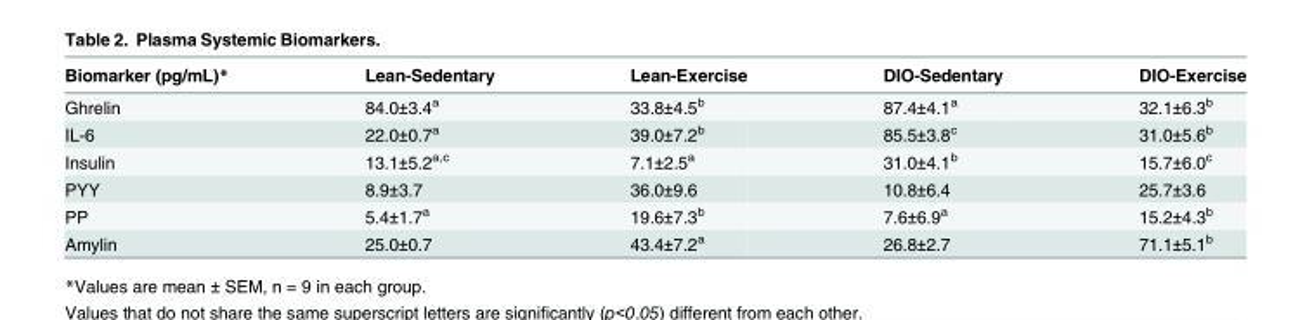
<table><thead><tr><td>Biomarker (pg/mL)*</td><td>Lean-Sedentary</td><td>Lean-Exercise</td><td>DIO-Sedentary</td><td>DIO-Exercise</td></tr></thead><tbody><tr><td>Ghrelin</td><td>84.0±3.4<sup>a</sup></td><td>33.8±4.5<sup>b</sup></td><td>87.4±4.1<sup>a</sup></td><td>32.1±6.3<sup>b</sup></td></tr><tr><td>IL-6</td><td>22.0±0.7<sup>a</sup></td><td>39.0±7.2<sup>b</sup></td><td>85.5±3.8<sup>c</sup></td><td>31.0±5.6<sup>b</sup></td></tr><tr><td>Insulin</td><td>13.1±5.2<sup>a,c</sup></td><td>7.1±2.5<sup>a</sup></td><td>31.0±4.1<sup>b</sup></td><td>15.7±6.0<sup>c</sup></td></tr><tr><td>PYY</td><td>8.9±3.7</td><td>36.0±9.6</td><td>10.8±6.4</td><td>25.7±3.6</td></tr><tr><td>PP</td><td>5.4±1.7<sup>a</sup></td><td>19.6±7.3<sup>b</sup></td><td>7.6±6.9<sup>a</sup></td><td>15.2±4.3<sup>b</sup></td></tr><tr><td>Amylin</td><td>25.0±0.7</td><td>43.4±7.2<sup>a</sup></td><td>26.8±2.7</td><td>71.1±5.1<sup>b</sup></td></tr></tbody></table>